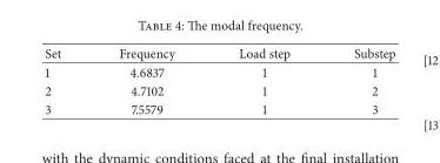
<table><thead><tr><td>Set</td><td>Frequency</td><td>Load step</td><td>Substep</td></tr></thead><tbody><tr><td>1</td><td>4.6837</td><td>1</td><td>1</td></tr><tr><td>2</td><td>4.7102</td><td>1</td><td>2</td></tr><tr><td>3</td><td>7.5579</td><td>1</td><td>3</td></tr></tbody></table>